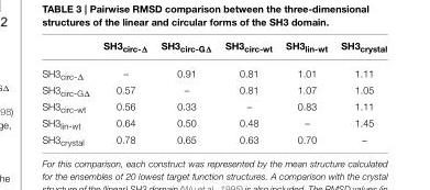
<table><thead><tr><td></td><td>SH3<sub>circ-</sub>Δ</td><td>SH3<sub>circ-G</sub>Δ</td><td>SH3<sub>circ-wt</sub></td><td>SH3<sub>lin-wt</sub></td><td>SH3<sub>crystal</sub></td></tr></thead><tbody><tr><td>SH3<sub>circ-Δ</sub></td><td>–</td><td>0.91</td><td>0.81</td><td>1.01</td><td>1.11</td></tr><tr><td>SH3<sub>circ-GΔ</sub></td><td>0.57</td><td>–</td><td>0.81</td><td>1.07</td><td>1.05</td></tr><tr><td>SH3<sub>circ-wt</sub></td><td>0.56</td><td>0.33</td><td>–</td><td>0.83</td><td>1.11</td></tr><tr><td>SH3<sub>lin-wt</sub></td><td>0.64</td><td>0.50</td><td>0.48</td><td>–</td><td>1.45</td></tr><tr><td>SH3<sub>crystal</sub></td><td>0.78</td><td>0.65</td><td>0.63</td><td>0.70</td><td>–</td></tr></tbody></table>